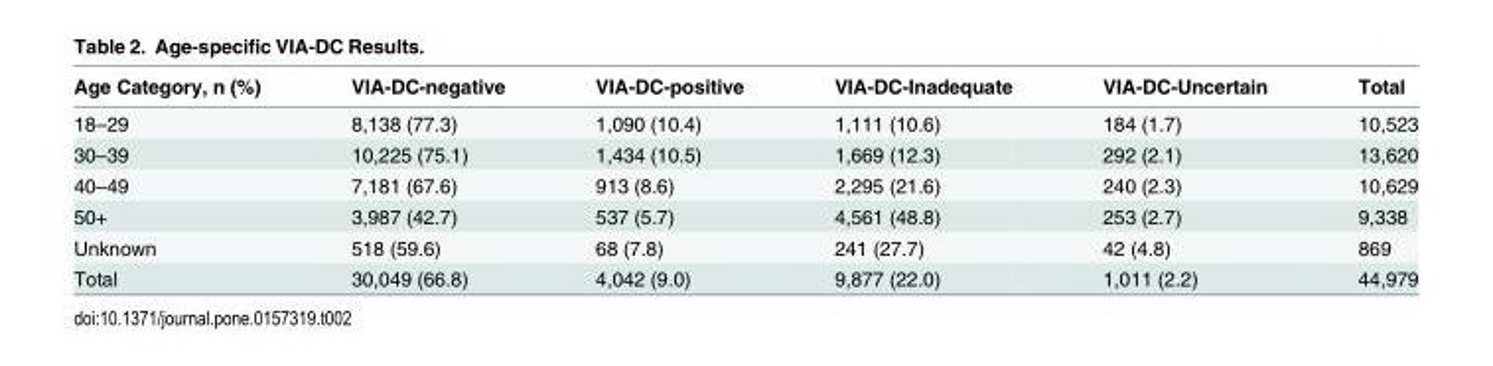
<table><thead><tr><td>Age Category, n (%)</td><td>VIA-DC-negative</td><td>VIA-DC-positive</td><td>VIA-DC-Inadequate</td><td>VIA-DC-Uncertain</td><td>Total</td></tr></thead><tbody><tr><td>18–29</td><td>8,138 (77.3)</td><td>1,090 (10.4)</td><td>1,111 (10.6)</td><td>184 (1.7)</td><td>10,523</td></tr><tr><td>30–39</td><td>10,225 (75.1)</td><td>1,434 (10.5)</td><td>1,669 (12.3)</td><td>292 (2.1)</td><td>13,620</td></tr><tr><td>40–49</td><td>7,181 (67.6)</td><td>913 (8.6)</td><td>2,295 (21.6)</td><td>240 (2.3)</td><td>10,629</td></tr><tr><td>50+</td><td>3,987 (42.7)</td><td>537 (5.7)</td><td>4,561 (48.8)</td><td>253 (2.7)</td><td>9,338</td></tr><tr><td>Unknown</td><td>518 (59.6)</td><td>68 (7.8)</td><td>241 (27.7)</td><td>42 (4.8)</td><td>869</td></tr><tr><td>Total</td><td>30,049 (66.8)</td><td>4,042 (9.0)</td><td>9,877 (22.0)</td><td>1,011 (2.2)</td><td>44,979</td></tr></tbody></table>